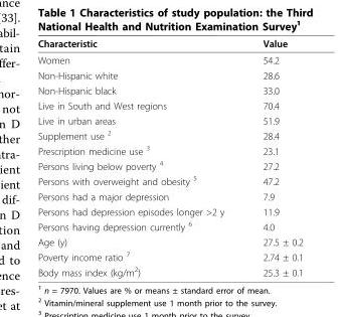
<table><thead><tr><td>Characteristic</td><td>Value</td></tr></thead><tbody><tr><td>Women</td><td>54.2</td></tr><tr><td>Non-Hispanic white</td><td>28.6</td></tr><tr><td>Non-Hispanic black</td><td>33.0</td></tr><tr><td>Live in South and West regions</td><td>70.4</td></tr><tr><td>Live in urban areas</td><td>51.9</td></tr><tr><td>Supplement use <sup>2</sup></td><td>28.4</td></tr><tr><td>Prescription medicine use <sup>3</sup></td><td>23.1</td></tr><tr><td>Persons living below poverty <sup>4</sup></td><td>27.2</td></tr><tr><td>Persons with overweight and obesity <sup>5</sup></td><td>47.2</td></tr><tr><td>Persons had a major depression</td><td>7.9</td></tr><tr><td>Persons had depression episodes longer &gt;2 y</td><td>11.9</td></tr><tr><td>Persons having depression currently <sup>6</sup></td><td>4.0</td></tr><tr><td>Age (y)</td><td>27.5 ± 0.2</td></tr><tr><td>Poverty income ratio <sup>7</sup></td><td>2.74 ± 0.1</td></tr><tr><td>Body mass index (kg/m<sup>2</sup>)</td><td>25.3 ± 0.1</td></tr></tbody></table>